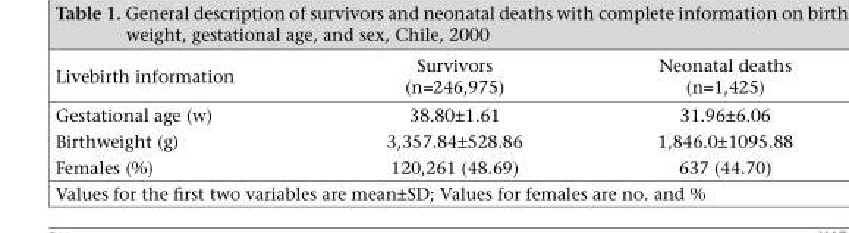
<table><thead><tr><td>Livebirth information</td><td>Survivors (n=246,975)</td><td>Neonatal deaths (n=1,425)</td></tr></thead><tbody><tr><td>Gestational age (w)</td><td>38.80±1.61</td><td>31.96±6.06</td></tr><tr><td>Birthweight (g)</td><td>3,357.84±528.86</td><td>1,846.0±1095.88</td></tr><tr><td>Females (%)</td><td>120,261 (48.69)</td><td>637 (44.70)</td></tr></tbody></table>